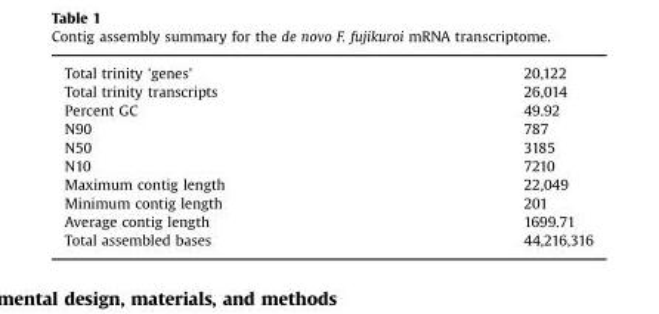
<table><tbody><tr><td>Total trinity &#x27;genes&#x27;</td><td>20,122</td></tr><tr><td>Total trinity transcripts</td><td>26,014</td></tr><tr><td>Percent GC</td><td>49.92</td></tr><tr><td>N90</td><td>787</td></tr><tr><td>N50</td><td>3185</td></tr><tr><td>N10</td><td>7210</td></tr><tr><td>Maximum contig length</td><td>22,049</td></tr><tr><td>Minimum contig length</td><td>201</td></tr><tr><td>Average contig length</td><td>1699.71</td></tr><tr><td>Total assembled bases</td><td>44,216,316</td></tr></tbody></table>